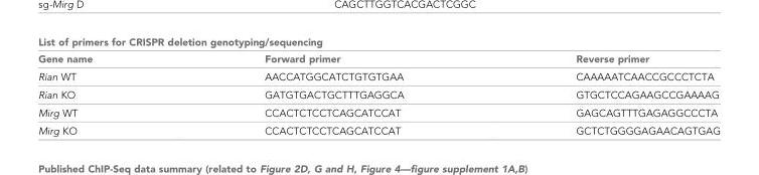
<table><thead><tr><td colspan="3">List of primers for CRISPR deletion genotyping/sequencing</td></tr><tr><td>Gene name</td><td>Forward primer</td><td>Reverse primer</td></tr></thead><tbody><tr><td>Rian WT</td><td>AACCATGGCATCTGTGTGAA</td><td>CAAAAATCAACCGCCCTCTA</td></tr><tr><td>Rian KO</td><td>GATGTGACTGCTTTGAGGCA</td><td>GTGCTCCAGAAGCCGAAAAG</td></tr><tr><td>Mirg WT</td><td>CCACTCTCCTCAGCATCCAT</td><td>GAGCAGTTTGAGAGGCCCTA</td></tr><tr><td>Mirg KO</td><td>CCACTCTCCTCAGCATCCAT</td><td>GCTCTGGGGAGAACAGTGAG</td></tr></tbody></table>